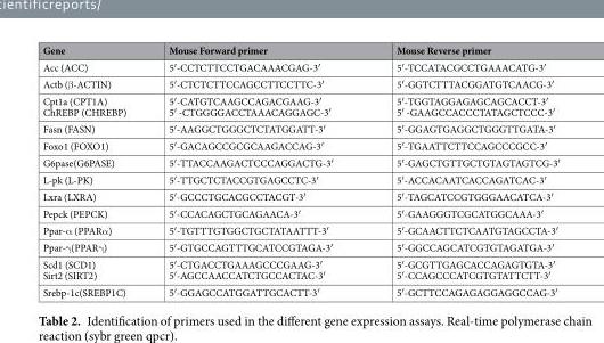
<table><thead><tr><td>Gene</td><td>Mouse Forward primer</td><td>Mouse Reverse primer</td></tr></thead><tbody><tr><td>Acc (ACC)</td><td>5′-CCTCTTCCTGACAAACGAG-3′</td><td>5′-TCCATACGCCTGAAACATG-3′</td></tr><tr><td>Actb (β-ACTIN)</td><td>5′-CTCTCTTCCAGCCTTCCTTC-3′</td><td>5′-GGTCTTTACGGATGTCAACG-3′</td></tr><tr><td>Cpt1a (CPT1A) ChREBP (CHREBP)</td><td>5′-CATGTCAAGCCAGACGAAG-3′ 5′ -CTGGGGACCTAAACAGGAGC-3′</td><td>5′-TGGTAGGAGAGCAGCACCT-3′ 5′ -GAAGCCACCCTATAGCTCCC-3′</td></tr><tr><td>Fasn (FASN)</td><td>5′-AAGGCTGGGCTCTATGGATT-3′</td><td>5′-GGAGTGAGGCTGGGTTGATA-3′</td></tr><tr><td>Foxo1 (FOXO1)</td><td>5′-GACAGCCGCGCAAGACCAG-3′</td><td>5′-TGAATTCTTCCAGCCCGCC-3′</td></tr><tr><td>G6pase(G6PASE)</td><td>5′-TTACCAAGACTCCCAGGACTG-3′</td><td>5′-GAGCTGTTGCTGTAGTAGTCG-3′</td></tr><tr><td>L-pk (L-PK)</td><td>5′-TTGCTCTACCGTGAGCCTC-3′</td><td>5′-ACCACAATCACCAGATCAC-3′</td></tr><tr><td>Lxra (LXRA)</td><td>5′-GCCCTGCACGCCTACGT-3′</td><td>5′-TAGCATCCGTGGGAACATCA-3′</td></tr><tr><td>Pepck (PEPCK)</td><td>5′-CCACAGCTGCAGAACA-3′</td><td>5′-GAAGGGTCGCATGGCAAA-3′</td></tr><tr><td>Ppar-α (PPARα)</td><td>5′-TGTTTGTGGCTGCTATAATTT-3′</td><td>5′-GCAACTTCTCAATGTAGCCTA-3′</td></tr><tr><td>Ppar-γ(PPARγ)</td><td>5′-GTGCCAGTTTGCATCCGTAGA-3′</td><td>5′-GGCCAGCATCGTGTAGATGA-3′</td></tr><tr><td>Scd1 (SCD1) Sirt2 (SIRT2)</td><td>5′-CTGACCTGAAAGCCCGAAG-3′ 5′-AGCCAACCATCTGCCACTAC-3′</td><td>5′-GCGTTGAGCACCAGAGTGTA-3′ 5′-CCAGCCCATCGTGTATTCTT-3′</td></tr><tr><td>Srebp-1c(SREBP1C)</td><td>5′-GGAGCCATGGATTGCACTT-3′</td><td>5′-GCTTCCAGAGAGGAGGCCAG-3′</td></tr></tbody></table>